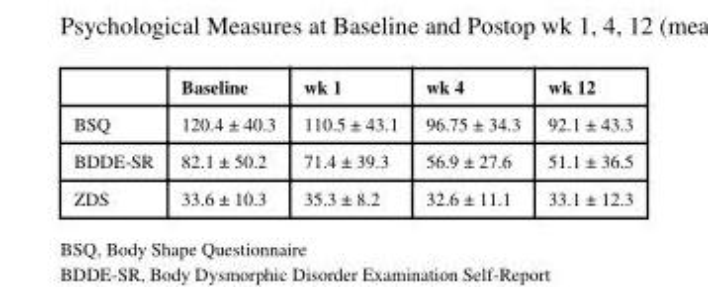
<table><thead><tr><td></td><td>Baseline</td><td>wk 1</td><td>wk 4</td><td>wk 12</td></tr></thead><tbody><tr><td>BSQ</td><td>120.4 ± 40.3</td><td>110.5 ± 43.1</td><td>96.75 ± 34.3</td><td>92.1 ± 43.3</td></tr><tr><td>BDDE-SR</td><td>82.1 ± 50.2</td><td>71.4 ± 39.3</td><td>56.9 ± 27.6</td><td>51.1 ± 36.5</td></tr><tr><td>ZDS</td><td>33.6 ± 10.3</td><td>35.3 ± 8.2</td><td>32.6 ± 11.1</td><td>33.1 ± 12.3</td></tr></tbody></table>